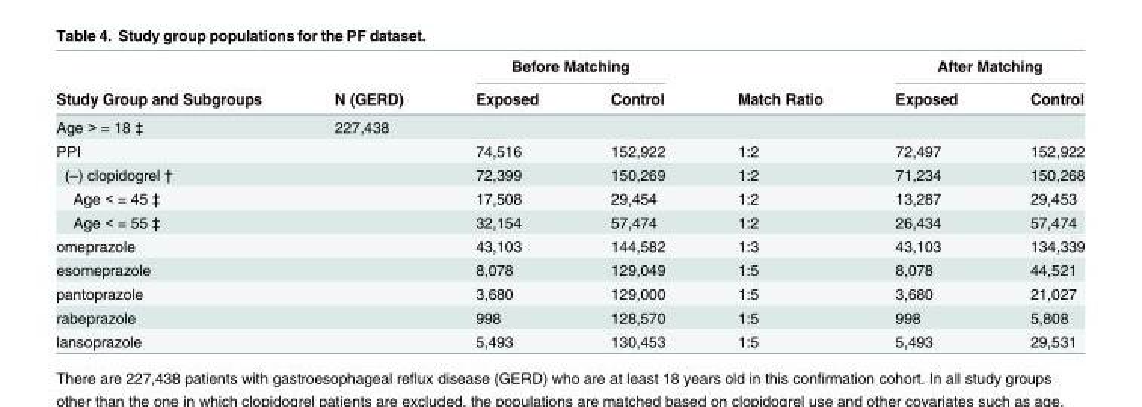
<table><thead><tr><td rowspan="2">Study Group and Subgroups</td><td rowspan="2">N (GERD)</td><td colspan="2">Before Matching</td><td rowspan="2">Match Ratio</td><td colspan="2">After Matching</td></tr><tr><td>Exposed</td><td>Control</td><td>Exposed</td><td>Control</td></tr></thead><tbody><tr><td>Age &gt; = 18 ‡</td><td>227,438</td><td></td><td></td><td></td><td></td><td></td></tr><tr><td>PPI</td><td></td><td>74,516</td><td>152,922</td><td>1:2</td><td>72,497</td><td>152,922</td></tr><tr><td>(–) clopidogrel †</td><td></td><td>72,399</td><td>150,269</td><td>1:2</td><td>71,234</td><td>150,268</td></tr><tr><td>Age &lt; = 45 ‡</td><td></td><td>17,508</td><td>29,454</td><td>1:2</td><td>13,287</td><td>29,453</td></tr><tr><td>Age &lt; = 55 ‡</td><td></td><td>32,154</td><td>57,474</td><td>1:2</td><td>26,434</td><td>57,474</td></tr><tr><td>omeprazole</td><td></td><td>43,103</td><td>144,582</td><td>1:3</td><td>43,103</td><td>134,339</td></tr><tr><td>esomeprazole</td><td></td><td>8,078</td><td>129,049</td><td>1:5</td><td>8,078</td><td>44,521</td></tr><tr><td>pantoprazole</td><td></td><td>3,680</td><td>129,000</td><td>1:5</td><td>3,680</td><td>21,027</td></tr><tr><td>rabeprazole</td><td></td><td>998</td><td>128,570</td><td>1:5</td><td>998</td><td>5,808</td></tr><tr><td>lansoprazole</td><td></td><td>5,493</td><td>130,453</td><td>1:5</td><td>5,493</td><td>29,531</td></tr></tbody></table>